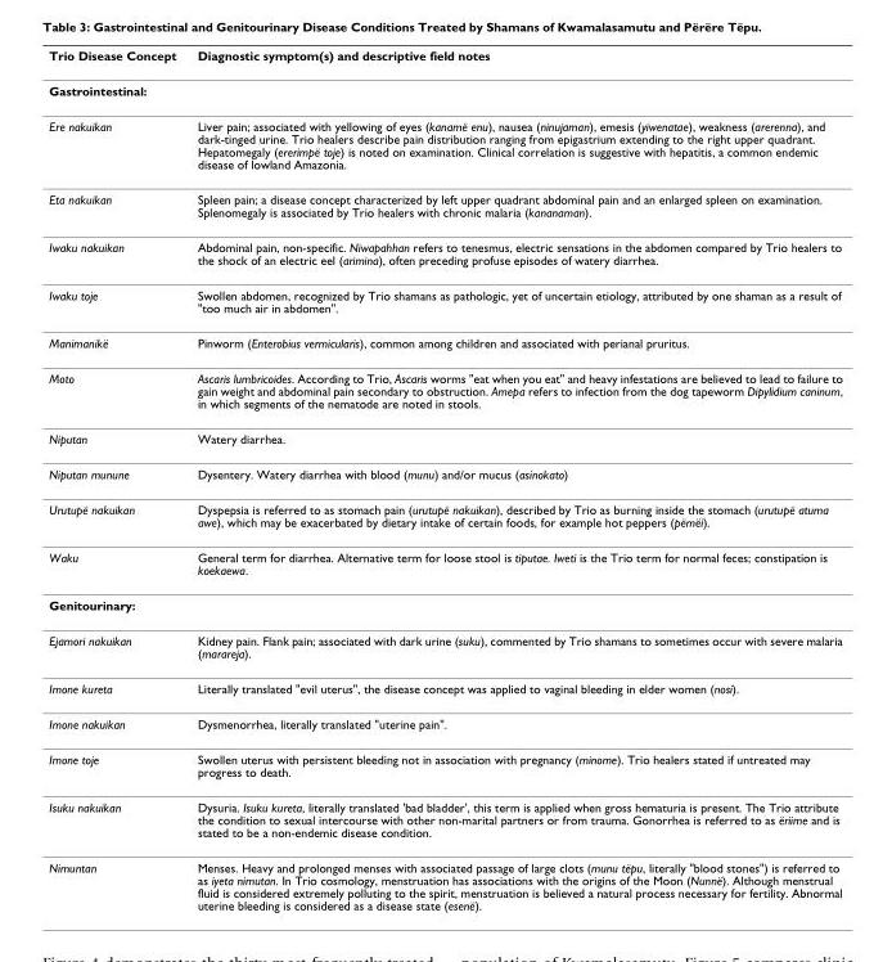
<table><thead><tr><td>Trio Disease Concept</td><td>Diagnostic symptom(s) and descriptive field notes</td></tr></thead><tbody><tr><td colspan="2">Gastrointestinal:</td></tr><tr><td>Ere nakuikan</td><td>Liver pain; associated with yellowing of eyes (kanamë enu), nausea (ninujaman), emesis (yiwenatae), weakness (arerenna), and dark-tinged urine. Trio healers describe pain distribution ranging from epigastrium extending to the right upper quadrant. Hepatomegaly (ererimpë toje) is noted on examination. Clinical correlation is suggestive with hepatitis, a common endemic disease of lowland Amazonia.</td></tr><tr><td>Eta nakuikan</td><td>Spleen pain; a disease concept characterized by left upper quadrant abdominal pain and an enlarged spleen on examination. Splenomegaly is associated by Trio healers with chronic malaria (kananaman).</td></tr><tr><td>Iwaku nakuikan</td><td>Abdominal pain, non-specific. Niwapahhan refers to tenesmus, electric sensations in the abdomen compared by Trio healers to the shock of an electric eel (arimina), often preceding profuse episodes of watery diarrhea.</td></tr><tr><td>Iwaku toje</td><td>Swollen abdomen, recognized by Trio shamans as pathologic, yet of uncertain etiology, attributed by one shaman as a result of &quot;too much air in abdomen&quot;.</td></tr><tr><td>Manimanikë</td><td>Pinworm (Enterobius vermicularis), common among children and associated with perianal pruritus.</td></tr><tr><td>Moto</td><td>Ascaris lumbricoides. According to Trio, Ascaris worms &quot;eat when you eat&quot; and heavy infestations are believed to lead to failure to gain weight and abdominal pain secondary to obstruction. Amepa refers to infection from the dog tapeworm Dipylidium caninum, in which segments of the nematode are noted in stools.</td></tr><tr><td>Niputan</td><td>Watery diarrhea.</td></tr><tr><td>Niputan munune</td><td>Dysentery. Watery diarrhea with blood (munu) and/or mucus (asinokato)</td></tr><tr><td>Urutupë nakuikan</td><td>Dyspepsia is referred to as stomach pain (urutupë nakuikan), described by Trio as burning inside the stomach (urutupë atuma awe), which may be exacerbated by dietary intake of certain foods, for example hot peppers (pëmëi).</td></tr><tr><td>Waku</td><td>General term for diarrhea. Alternative term for loose stool is tiputae. Iweti is the Trio term for normal feces; constipation is koekaewa.</td></tr><tr><td colspan="2">Genitourinary:</td></tr><tr><td>Ejamori nakuikan</td><td>Kidney pain. Flank pain; associated with dark urine (suku), commented by Trio shamans to sometimes occur with severe malaria (marareja).</td></tr><tr><td>Imone kureta</td><td>Literally translated &quot;evil uterus&quot;, the disease concept was applied to vaginal bleeding in elder women (nosi).</td></tr><tr><td>Imone nakuikan</td><td>Dysmenorrhea, literally translated &quot;uterine pain&quot;.</td></tr><tr><td>Imone toje</td><td>Swollen uterus with persistent bleeding not in association with pregnancy (minome). Trio healers stated if untreated may progress to death.</td></tr><tr><td>Isuku nakuikan</td><td>Dysuria. Isuku kureta, literally translated &#x27;bad bladder&#x27;, this term is applied when gross hematuria is present. The Trio attribute the condition to sexual intercourse with other non-marital partners or from trauma. Gonorrhea is referred to as ëriime and is stated to be a non-endemic disease condition.</td></tr><tr><td>Nimuntan</td><td>Menses. Heavy and prolonged menses with associated passage of large clots (munu tëpu, literally &quot;blood stones&quot;) is referred to as iyeta nimutan. In Trio cosmology, menstruation has associations with the origins of the Moon (Nunnë). Although menstrual fluid is considered extremely polluting to the spirit, menstruation is believed a natural process necessary for fertility. Abnormal uterine bleeding is considered as a disease state (esenë).</td></tr></tbody></table>